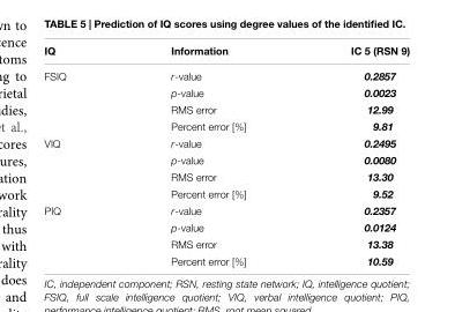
<table><thead><tr><td>IQ</td><td>Information</td><td>IC 5 (RSN 9)</td></tr></thead><tbody><tr><td rowspan="4">FSIQ</td><td>r-value</td><td>0.2857</td></tr><tr><td>p-value</td><td>0.0023</td></tr><tr><td>RMS error</td><td>12.99</td></tr><tr><td>Percent error [%]</td><td>9.81</td></tr><tr><td rowspan="4">VIQ</td><td>r-value</td><td>0.2495</td></tr><tr><td>p-value</td><td>0.0080</td></tr><tr><td>RMS error</td><td>13.30</td></tr><tr><td>Percent error [%]</td><td>9.52</td></tr><tr><td rowspan="4">PIQ</td><td>r-value</td><td>0.2357</td></tr><tr><td>p-value</td><td>0.0124</td></tr><tr><td>RMS error</td><td>13.38</td></tr><tr><td>Percent error [%]</td><td>10.59</td></tr></tbody></table>